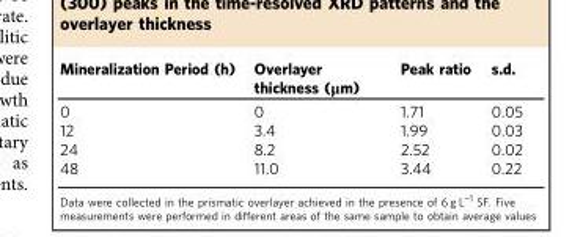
<table><thead><tr><td>Mineralization Period (h)</td><td>Overlayer thickness (μm)</td><td>Peak ratio</td><td>s.d.</td></tr></thead><tbody><tr><td>0</td><td>0</td><td>1.71</td><td>0.05</td></tr><tr><td>12</td><td>3.4</td><td>1.99</td><td>0.03</td></tr><tr><td>24</td><td>8.2</td><td>2.52</td><td>0.02</td></tr><tr><td>48</td><td>11.0</td><td>3.44</td><td>0.22</td></tr></tbody></table>